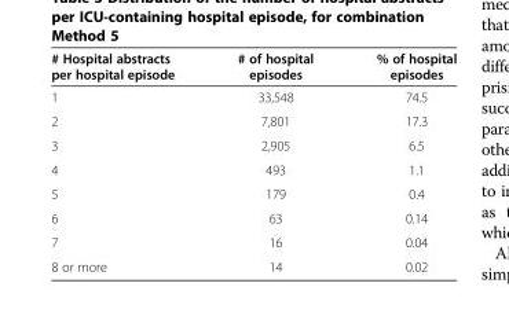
<table><thead><tr><td># Hospital abstracts per hospital episode</td><td># of hospital episodes</td><td>% of hospital episodes</td></tr></thead><tbody><tr><td>1</td><td>33,548</td><td>74.5</td></tr><tr><td>2</td><td>7,801</td><td>17.3</td></tr><tr><td>3</td><td>2,905</td><td>6.5</td></tr><tr><td>4</td><td>493</td><td>1.1</td></tr><tr><td>5</td><td>179</td><td>0.4</td></tr><tr><td>6</td><td>63</td><td>0.14</td></tr><tr><td>7</td><td>16</td><td>0.04</td></tr><tr><td>8 or more</td><td>14</td><td>0.02</td></tr></tbody></table>